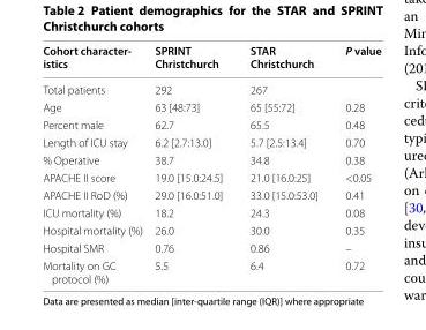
<table><thead><tr><td>Cohort character- istics</td><td>SPRINT Christchurch</td><td>STAR Christchurch</td><td>P value</td></tr></thead><tbody><tr><td>Total patients</td><td>292</td><td>267</td><td></td></tr><tr><td>Age</td><td>63 [48:73]</td><td>65 [55:72]</td><td>0.28</td></tr><tr><td>Percent male</td><td>62.7</td><td>65.5</td><td>0.48</td></tr><tr><td>Length of ICU stay</td><td>6.2 [2.7:13.0]</td><td>5.7 [2.5:13.4]</td><td>0.70</td></tr><tr><td>% Operative</td><td>38.7</td><td>34.8</td><td>0.38</td></tr><tr><td>APACHE II score</td><td>19.0 [15.0:24.5]</td><td>21.0 [16.0:25]</td><td>&lt;0.05</td></tr><tr><td>APACHE II RoD (%)</td><td>29.0 [16.0:51.0]</td><td>33.0 [15.0:53.0]</td><td>0.41</td></tr><tr><td>ICU mortality (%)</td><td>18.2</td><td>24.3</td><td>0.08</td></tr><tr><td>Hospital mortality (%)</td><td>26.0</td><td>30.0</td><td>0.35</td></tr><tr><td>Hospital SMR</td><td>0.76</td><td>0.86</td><td>–</td></tr><tr><td>Mortality on GC protocol (%)</td><td>5.5</td><td>6.4</td><td>0.72</td></tr></tbody></table>